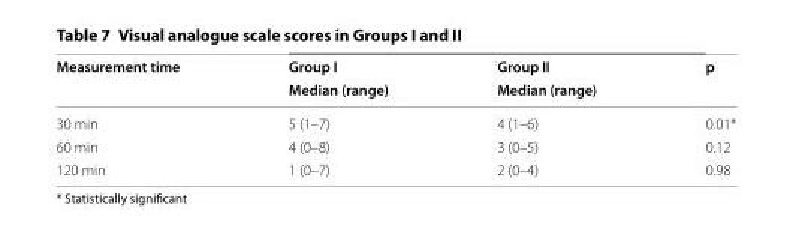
<table><thead><tr><td rowspan="2">Measurement time</td><td rowspan="2">Group I Median (range)</td><td rowspan="2">Group II Median (range)</td><td rowspan="2">p</td></tr><tr></tr></thead><tbody><tr><td>30 min</td><td>5 (1–7)</td><td>4 (1–6)</td><td>0.01*</td></tr><tr><td>60 min</td><td>4 (0–8)</td><td>3 (0–5)</td><td>0.12</td></tr><tr><td>120 min</td><td>1 (0–7)</td><td>2 (0–4)</td><td>0.98</td></tr></tbody></table>